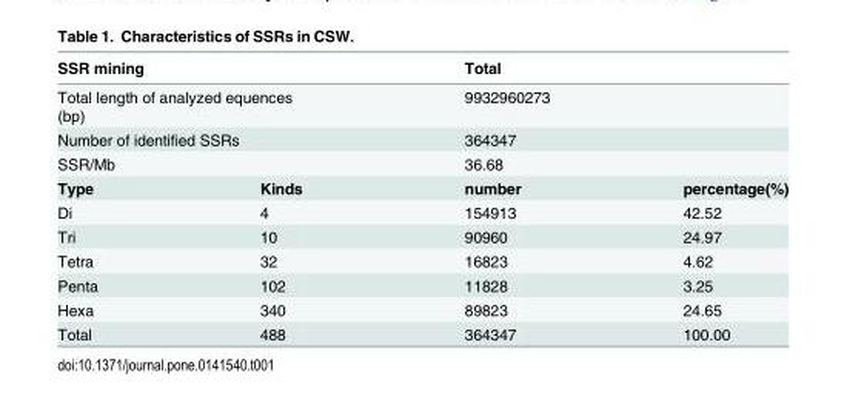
<table><thead><tr><td colspan="2">SSR mining</td><td colspan="2">Total</td></tr></thead><tbody><tr><td colspan="2">Total length of analyzed equences (bp)</td><td colspan="2">9932960273</td></tr><tr><td colspan="2">Number of identified SSRs</td><td colspan="2">364347</td></tr><tr><td colspan="2">SSR/Mb</td><td colspan="2">36.68</td></tr><tr><td>Type</td><td>Kinds</td><td>number</td><td>percentage(%)</td></tr><tr><td>Di</td><td>4</td><td>154913</td><td>42.52</td></tr><tr><td>Tri</td><td>10</td><td>90960</td><td>24.97</td></tr><tr><td>Tetra</td><td>32</td><td>16823</td><td>4.62</td></tr><tr><td>Penta</td><td>102</td><td>11828</td><td>3.25</td></tr><tr><td>Hexa</td><td>340</td><td>89823</td><td>24.65</td></tr><tr><td>Total</td><td>488</td><td>364347</td><td>100.00</td></tr></tbody></table>